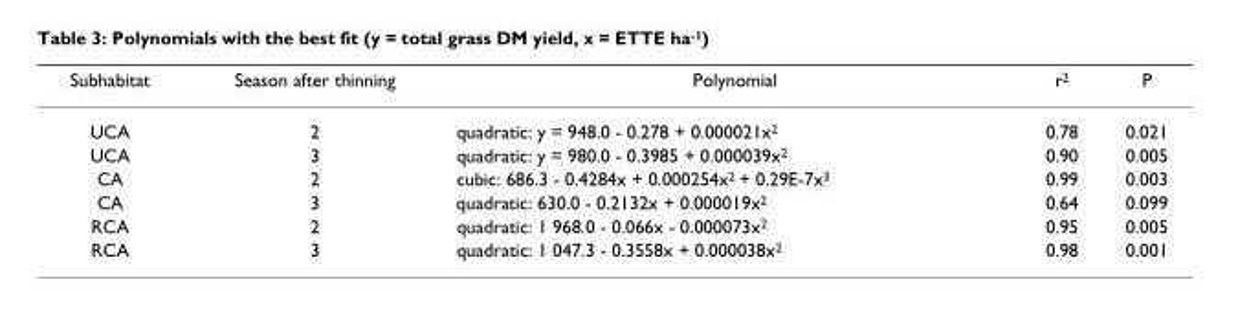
<table><thead><tr><td>Subhabitat</td><td>Season after thinning</td><td>Polynomial</td><td>r<sup>2</sup></td><td>P</td></tr></thead><tbody><tr><td>UCA</td><td>2</td><td>quadratic: y = 948.0 - 0.278 + 0.000021x<sup>2</sup></td><td>0.78</td><td>0.021</td></tr><tr><td>UCA</td><td>3</td><td>quadratic: y = 980.0 - 0.3985 + 0.000039x<sup>2</sup></td><td>0.90</td><td>0.005</td></tr><tr><td>CA</td><td>2</td><td>cubic: 686.3 - 0.4284x + 0.000254x<sup>2</sup> + 0.29E-7x<sup>3</sup></td><td>0.99</td><td>0.003</td></tr><tr><td>CA</td><td>3</td><td>quadratic: 630.0 - 0.2132x + 0.000019x<sup>2</sup></td><td>0.64</td><td>0.099</td></tr><tr><td>RCA</td><td>2</td><td>quadratic: 1 968.0 - 0.066x - 0.000073x<sup>2</sup></td><td>0.95</td><td>0.005</td></tr><tr><td>RCA</td><td>3</td><td>quadratic: 1 047.3 - 0.3558x + 0.000038x<sup>2</sup></td><td>0.98</td><td>0.001</td></tr></tbody></table>